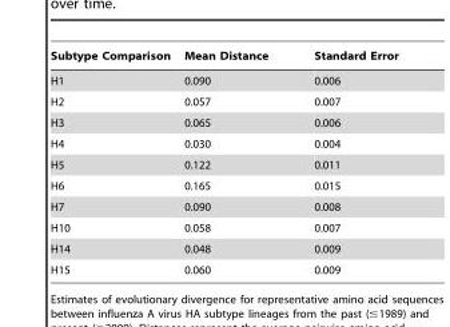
<table><thead><tr><td>Subtype Comparison</td><td>Mean Distance</td><td>Standard Error</td></tr></thead><tbody><tr><td>H1</td><td>0.090</td><td>0.006</td></tr><tr><td>H2</td><td>0.057</td><td>0.007</td></tr><tr><td>H3</td><td>0.065</td><td>0.006</td></tr><tr><td>H4</td><td>0.030</td><td>0.004</td></tr><tr><td>H5</td><td>0.122</td><td>0.011</td></tr><tr><td>H6</td><td>0.165</td><td>0.015</td></tr><tr><td>H7</td><td>0.090</td><td>0.008</td></tr><tr><td>H10</td><td>0.058</td><td>0.007</td></tr><tr><td>H14</td><td>0.048</td><td>0.009</td></tr><tr><td>H15</td><td>0.060</td><td>0.009</td></tr></tbody></table>